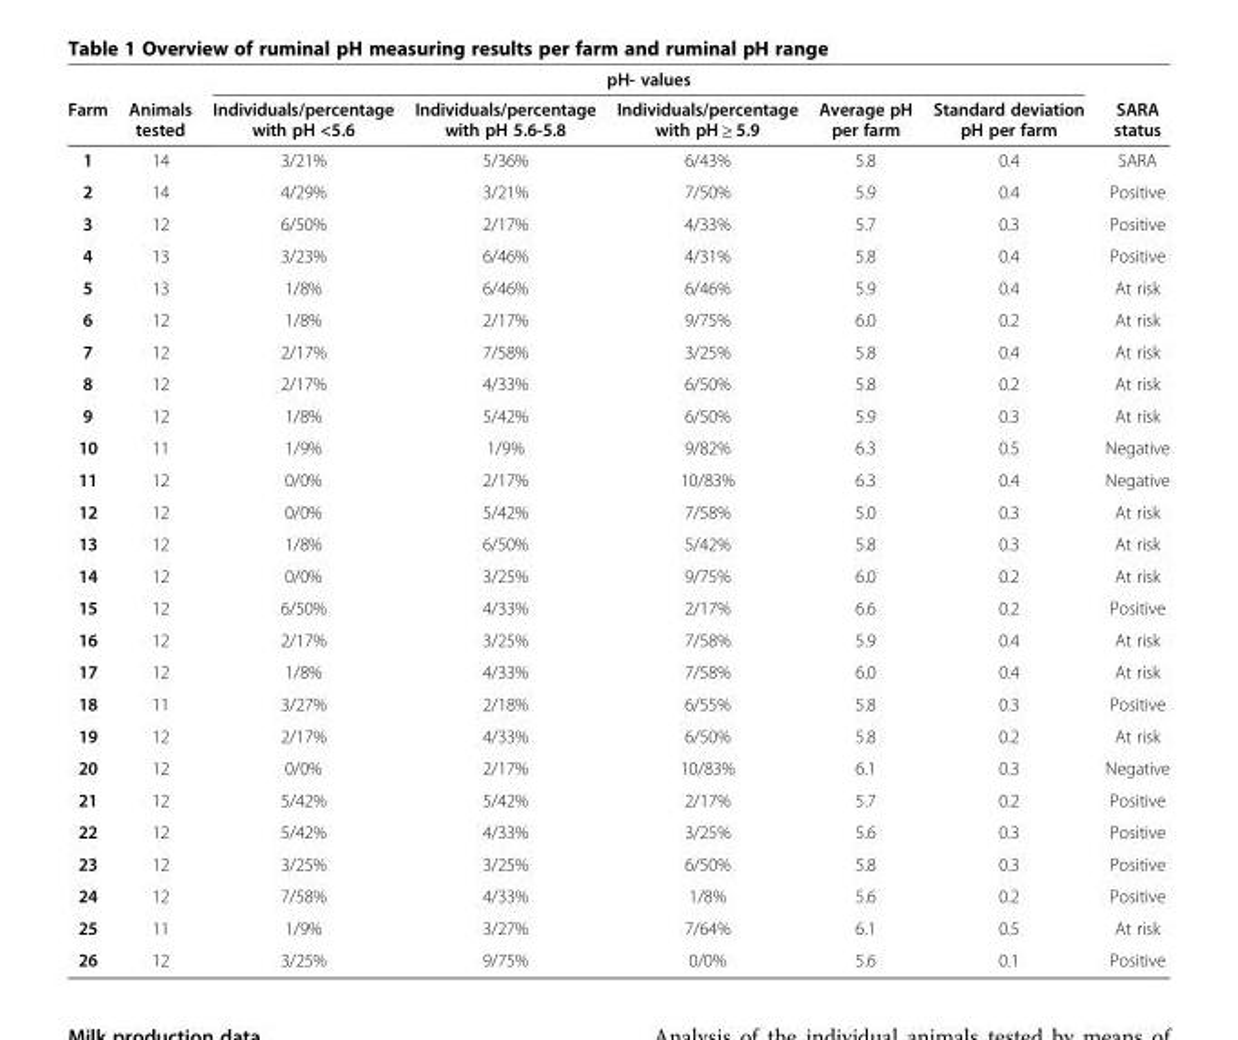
<table><thead><tr><td rowspan="2">Farm</td><td rowspan="2">Animals tested</td><td colspan="5">pH- values</td><td rowspan="2">SARA status</td></tr><tr><td>Individuals/percentage with pH &lt;5.6</td><td>Individuals/percentage with pH 5.6-5.8</td><td>Individuals/percentage with pH ≥ 5.9</td><td>Average pH per farm</td><td>Standard deviation pH per farm</td></tr></thead><tbody><tr><td>1</td><td>14</td><td>3/21%</td><td>5/36%</td><td>6/43%</td><td>5.8</td><td>0.4</td><td>SARA</td></tr><tr><td>2</td><td>14</td><td>4/29%</td><td>3/21%</td><td>7/50%</td><td>5.9</td><td>0.4</td><td>Positive</td></tr><tr><td>3</td><td>12</td><td>6/50%</td><td>2/17%</td><td>4/33%</td><td>5.7</td><td>0.3</td><td>Positive</td></tr><tr><td>4</td><td>13</td><td>3/23%</td><td>6/46%</td><td>4/31%</td><td>5.8</td><td>0.4</td><td>Positive</td></tr><tr><td>5</td><td>13</td><td>1/8%</td><td>6/46%</td><td>6/46%</td><td>5.9</td><td>0.4</td><td>At risk</td></tr><tr><td>6</td><td>12</td><td>1/8%</td><td>2/17%</td><td>9/75%</td><td>6.0</td><td>0.2</td><td>At risk</td></tr><tr><td>7</td><td>12</td><td>2/17%</td><td>7/58%</td><td>3/25%</td><td>5.8</td><td>0.4</td><td>At risk</td></tr><tr><td>8</td><td>12</td><td>2/17%</td><td>4/33%</td><td>6/50%</td><td>5.8</td><td>0.2</td><td>At risk</td></tr><tr><td>9</td><td>12</td><td>1/8%</td><td>5/42%</td><td>6/50%</td><td>5.9</td><td>0.3</td><td>At risk</td></tr><tr><td>10</td><td>11</td><td>1/9%</td><td>1/9%</td><td>9/82%</td><td>6.3</td><td>0.5</td><td>Negative</td></tr><tr><td>11</td><td>12</td><td>0/0%</td><td>2/17%</td><td>10/83%</td><td>6.3</td><td>0.4</td><td>Negative</td></tr><tr><td>12</td><td>12</td><td>0/0%</td><td>5/42%</td><td>7/58%</td><td>5.0</td><td>0.3</td><td>At risk</td></tr><tr><td>13</td><td>12</td><td>1/8%</td><td>6/50%</td><td>5/42%</td><td>5.8</td><td>0.3</td><td>At risk</td></tr><tr><td>14</td><td>12</td><td>0/0%</td><td>3/25%</td><td>9/75%</td><td>6.0</td><td>0.2</td><td>At risk</td></tr><tr><td>15</td><td>12</td><td>6/50%</td><td>4/33%</td><td>2/17%</td><td>6.6</td><td>0.2</td><td>Positive</td></tr><tr><td>16</td><td>12</td><td>2/17%</td><td>3/25%</td><td>7/58%</td><td>5.9</td><td>0.4</td><td>At risk</td></tr><tr><td>17</td><td>12</td><td>1/8%</td><td>4/33%</td><td>7/58%</td><td>6.0</td><td>0.4</td><td>At risk</td></tr><tr><td>18</td><td>11</td><td>3/27%</td><td>2/18%</td><td>6/55%</td><td>5.8</td><td>0.3</td><td>Positive</td></tr><tr><td>19</td><td>12</td><td>2/17%</td><td>4/33%</td><td>6/50%</td><td>5.8</td><td>0.2</td><td>At risk</td></tr><tr><td>20</td><td>12</td><td>0/0%</td><td>2/17%</td><td>10/83%</td><td>6.1</td><td>0.3</td><td>Negative</td></tr><tr><td>21</td><td>12</td><td>5/42%</td><td>5/42%</td><td>2/17%</td><td>5.7</td><td>0.2</td><td>Positive</td></tr><tr><td>22</td><td>12</td><td>5/42%</td><td>4/33%</td><td>3/25%</td><td>5.6</td><td>0.3</td><td>Positive</td></tr><tr><td>23</td><td>12</td><td>3/25%</td><td>3/25%</td><td>6/50%</td><td>5.8</td><td>0.3</td><td>Positive</td></tr><tr><td>24</td><td>12</td><td>7/58%</td><td>4/33%</td><td>1/8%</td><td>5.6</td><td>0.2</td><td>Positive</td></tr><tr><td>25</td><td>11</td><td>1/9%</td><td>3/27%</td><td>7/64%</td><td>6.1</td><td>0.5</td><td>At risk</td></tr><tr><td>26</td><td>12</td><td>3/25%</td><td>9/75%</td><td>0/0%</td><td>5.6</td><td>0.1</td><td>Positive</td></tr></tbody></table>